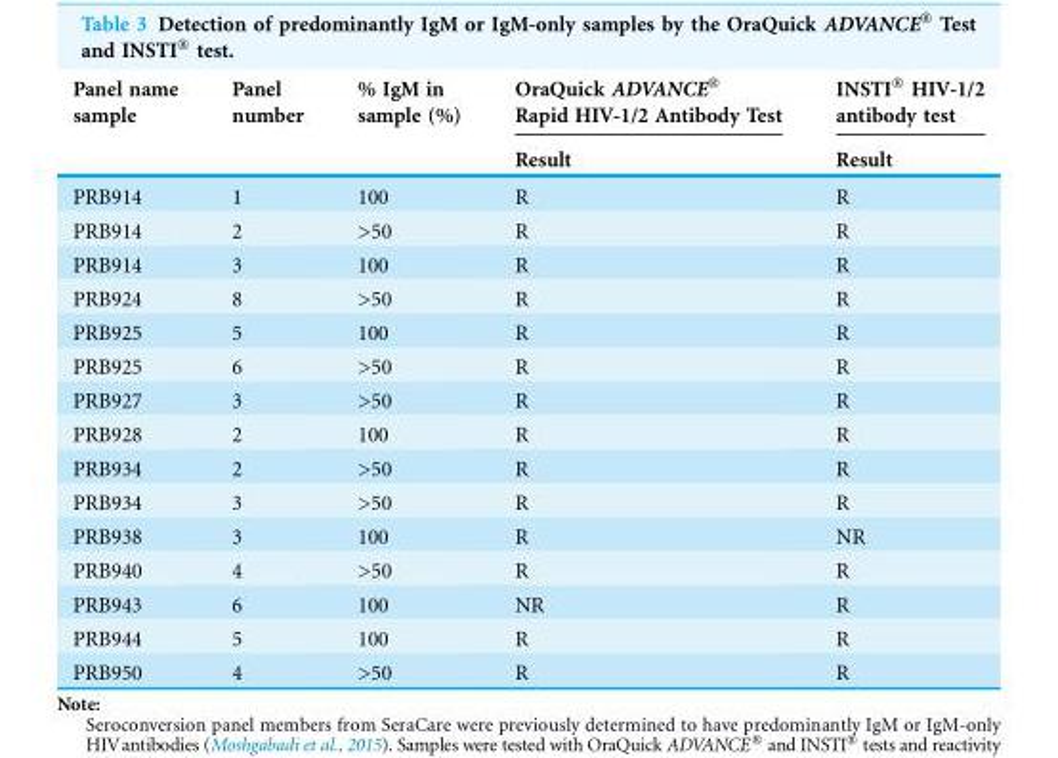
<table><thead><tr><td rowspan="2">Panel name sample</td><td rowspan="2">Panel number</td><td rowspan="2">% IgM in sample (%)</td><td rowspan="2">OraQuick ADVANCE® Rapid HIV-1/2 Antibody Test Result</td><td rowspan="2">INSTI® HIV-1/2 antibody test Result</td></tr><tr></tr></thead><tbody><tr><td>PRB914</td><td>1</td><td>100</td><td>R</td><td>R</td></tr><tr><td>PRB914</td><td>2</td><td>&gt;50</td><td>R</td><td>R</td></tr><tr><td>PRB914</td><td>3</td><td>100</td><td>R</td><td>R</td></tr><tr><td>PRB924</td><td>8</td><td>&gt;50</td><td>R</td><td>R</td></tr><tr><td>PRB925</td><td>5</td><td>100</td><td>R</td><td>R</td></tr><tr><td>PRB925</td><td>6</td><td>&gt;50</td><td>R</td><td>R</td></tr><tr><td>PRB927</td><td>3</td><td>&gt;50</td><td>R</td><td>R</td></tr><tr><td>PRB928</td><td>2</td><td>100</td><td>R</td><td>R</td></tr><tr><td>PRB934</td><td>2</td><td>&gt;50</td><td>R</td><td>R</td></tr><tr><td>PRB934</td><td>3</td><td>&gt;50</td><td>R</td><td>R</td></tr><tr><td>PRB938</td><td>3</td><td>100</td><td>R</td><td>NR</td></tr><tr><td>PRB940</td><td>4</td><td>&gt;50</td><td>R</td><td>R</td></tr><tr><td>PRB943</td><td>6</td><td>100</td><td>NR</td><td>R</td></tr><tr><td>PRB944</td><td>5</td><td>100</td><td>R</td><td>R</td></tr><tr><td>PRB950</td><td>4</td><td>&gt;50</td><td>R</td><td>R</td></tr></tbody></table>